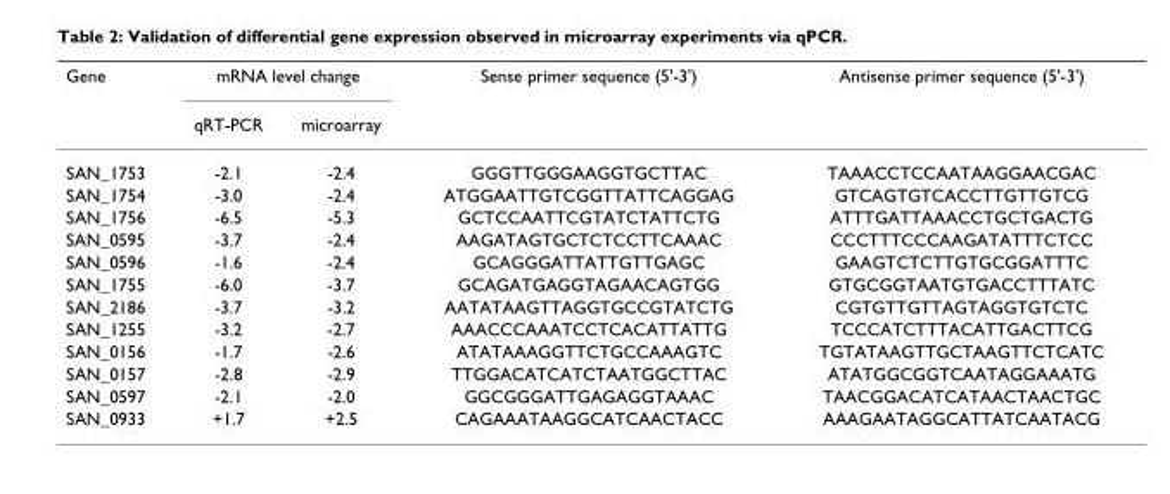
<table><thead><tr><td rowspan="2">Gene</td><td colspan="2">mRNA level change</td><td rowspan="2">Sense primer sequence (5&#x27;-3&#x27;)</td><td rowspan="2">Antisense primer sequence (5&#x27;-3&#x27;)</td></tr><tr><td>qRT-PCR</td><td>microarray</td></tr></thead><tbody><tr><td>SAN_1753</td><td>-2.1</td><td>-2.4</td><td>GGGTTGGGAAGGTGCTTAC</td><td>TAAACCTCCAATAAGGAACGAC</td></tr><tr><td>SAN_1754</td><td>-3.0</td><td>-2.4</td><td>ATGGAATTGTCGGTTATTCAGGAG</td><td>GTCAGTGTCACCTTGTTGTCG</td></tr><tr><td>SAN_1756</td><td>-6.5</td><td>-5.3</td><td>GCTCCAATTCGTATCTATTCTG</td><td>ATTTGATTAAACCTGCTGACTG</td></tr><tr><td>SAN_0595</td><td>-3.7</td><td>-2.4</td><td>AAGATAGTGCTCTCCTTCAAAC</td><td>CCCTTTCCCAAGATATTTCTCC</td></tr><tr><td>SAN_0596</td><td>-1.6</td><td>-2.4</td><td>GCAGGGATTATTGTTGAGC</td><td>GAAGTCTCTTGTGCGGATTTC</td></tr><tr><td>SAN_1755</td><td>-6.0</td><td>-3.7</td><td>GCAGATGAGGTAGAACAGTGG</td><td>GTGCGGTAATGTGACCTTTATC</td></tr><tr><td>SAN_2186</td><td>-3.7</td><td>-3.2</td><td>AATATAAGTTAGGTGCCGTATCTG</td><td>CGTGTTGTTAGTAGGTGTCTC</td></tr><tr><td>SAN_1255</td><td>-3.2</td><td>-2.7</td><td>AAACCCAAATCCTCACATTATTG</td><td>TCCCATCTTTACATTGACTTCG</td></tr><tr><td>SAN_0156</td><td>-1.7</td><td>-2.6</td><td>ATATAAAGGTTCTGCCAAAGTC</td><td>TGTATAAGTTGCTAAGTTCTCATC</td></tr><tr><td>SAN_0157</td><td>-2.8</td><td>-2.9</td><td>TTGGACATCATCTAATGGCTTAC</td><td>ATATGGCGGTCAATAGGAAATG</td></tr><tr><td>SAN_0597</td><td>-2.1</td><td>-2.0</td><td>GGCGGGATTGAGAGGTAAAC</td><td>TAACGGACATCATAACTAACTGC</td></tr><tr><td>SAN_0933</td><td>+1.7</td><td>+2.5</td><td>CAGAAATAAGGCATCAACTACC</td><td>AAAGAATAGGCATTATCAATACG</td></tr></tbody></table>